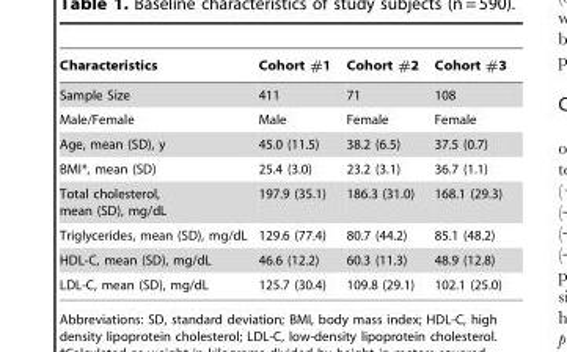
<table><thead><tr><td>Characteristics</td><td>Cohort #1</td><td>Cohort #2</td><td>Cohort #3</td></tr></thead><tbody><tr><td>Sample Size</td><td>411</td><td>71</td><td>108</td></tr><tr><td>Male/Female</td><td>Male</td><td>Female</td><td>Female</td></tr><tr><td>Age, mean (SD), y</td><td>45.0 (11.5)</td><td>38.2 (6.5)</td><td>37.5 (0.7)</td></tr><tr><td>BMI*, mean (SD)</td><td>25.4 (3.0)</td><td>23.2 (3.1)</td><td>36.7 (1.1)</td></tr><tr><td>Total cholesterol, mean (SD), mg/dL</td><td>197.9 (35.1)</td><td>186.3 (31.0)</td><td>168.1 (29.3)</td></tr><tr><td>Triglycerides, mean (SD), mg/dL</td><td>129.6 (77.4)</td><td>80.7 (44.2)</td><td>85.1 (48.2)</td></tr><tr><td>HDL-C, mean (SD), mg/dL</td><td>46.6 (12.2)</td><td>60.3 (11.3)</td><td>48.9 (12.8)</td></tr><tr><td>LDL-C, mean (SD), mg/dL</td><td>125.7 (30.4)</td><td>109.8 (29.1)</td><td>102.1 (25.0)</td></tr></tbody></table>